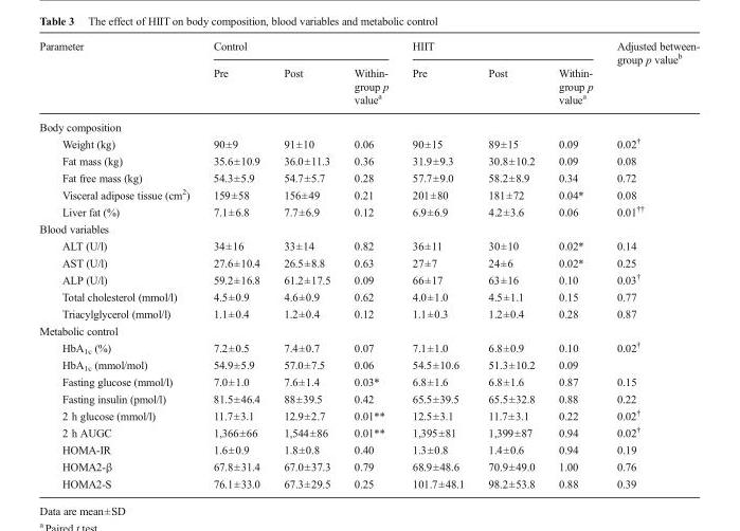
<table><thead><tr><td rowspan="2">Parameter</td><td colspan="3">Control</td><td colspan="3">HIIT</td><td rowspan="2">Adjusted between- group p value<sup>b</sup></td></tr><tr><td>Pre</td><td>Post</td><td>Within- group p value<sup>a</sup></td><td>Pre</td><td>Post</td><td>Within- group p value<sup>a</sup></td></tr></thead><tbody><tr><td colspan="8">Body composition</td></tr><tr><td>Weight (kg)</td><td>90±9</td><td>91±10</td><td>0.06</td><td>90±15</td><td>89±15</td><td>0.09</td><td>0.02<sup>†</sup></td></tr><tr><td>Fat mass (kg)</td><td>35.6±10.9</td><td>36.0±11.3</td><td>0.36</td><td>31.9±9.3</td><td>30.8±10.2</td><td>0.09</td><td>0.08</td></tr><tr><td>Fat free mass (kg)</td><td>54.3±5.9</td><td>54.7±5.7</td><td>0.28</td><td>57.7±9.0</td><td>58.2±8.9</td><td>0.34</td><td>0.72</td></tr><tr><td>Visceral adipose tissue (cm<sup>2</sup>)</td><td>159±58</td><td>156±49</td><td>0.21</td><td>201±80</td><td>181±72</td><td>0.04*</td><td>0.08</td></tr><tr><td>Liver fat (%)</td><td>7.1±6.8</td><td>7.7±6.9</td><td>0.12</td><td>6.9±6.9</td><td>4.2±3.6</td><td>0.06</td><td>0.01<sup>††</sup></td></tr><tr><td colspan="8">Blood variables</td></tr><tr><td>ALT (U/l)</td><td>34±16</td><td>33±14</td><td>0.82</td><td>36±11</td><td>30±10</td><td>0.02*</td><td>0.14</td></tr><tr><td>AST (U/l)</td><td>27.6±10.4</td><td>26.5±8.8</td><td>0.63</td><td>27±7</td><td>24±6</td><td>0.02*</td><td>0.25</td></tr><tr><td>ALP (U/l)</td><td>59.2±16.8</td><td>61.2±17.5</td><td>0.09</td><td>66±17</td><td>63±16</td><td>0.10</td><td>0.03<sup>†</sup></td></tr><tr><td>Total cholesterol (mmol/l)</td><td>4.5±0.9</td><td>4.6±0.9</td><td>0.62</td><td>4.0±1.0</td><td>4.5±1.1</td><td>0.15</td><td>0.77</td></tr><tr><td>Triacylglycerol (mmol/l)</td><td>1.1±0.4</td><td>1.2±0.4</td><td>0.12</td><td>1.1±0.3</td><td>1.2±0.4</td><td>0.28</td><td>0.87</td></tr><tr><td colspan="8">Metabolic control</td></tr><tr><td>HbA<sub>1c</sub> (%)</td><td>7.2±0.5</td><td>7.4±0.7</td><td>0.07</td><td>7.1±1.0</td><td>6.8±0.9</td><td>0.10</td><td>0.02<sup>†</sup></td></tr><tr><td>HbA<sub>1c</sub> (mmol/mol)</td><td>54.9±5.9</td><td>57.0±7.5</td><td>0.06</td><td>54.5±10.6</td><td>51.3±10.2</td><td>0.09</td><td></td></tr><tr><td>Fasting glucose (mmol/l)</td><td>7.0±1.0</td><td>7.6±1.4</td><td>0.03*</td><td>6.8±1.6</td><td>6.8±1.6</td><td>0.87</td><td>0.15</td></tr><tr><td>Fasting insulin (pmol/l)</td><td>81.5±46.4</td><td>88±39.5</td><td>0.42</td><td>65.5±39.5</td><td>65.5±32.8</td><td>0.88</td><td>0.22</td></tr><tr><td>2 h glucose (mmol/l)</td><td>11.7±3.1</td><td>12.9±2.7</td><td>0.01**</td><td>12.5±3.1</td><td>11.7±3.1</td><td>0.22</td><td>0.02<sup>†</sup></td></tr><tr><td>2 h AUGC</td><td>1,366±66</td><td>1,544±86</td><td>0.01**</td><td>1,395±81</td><td>1,399±87</td><td>0.94</td><td>0.02<sup>†</sup></td></tr><tr><td>HOMA-IR</td><td>1.6±0.9</td><td>1.8±0.8</td><td>0.40</td><td>1.3±0.8</td><td>1.4±0.6</td><td>0.94</td><td>0.19</td></tr><tr><td>HOMA2-β</td><td>67.8±31.4</td><td>67.0±37.3</td><td>0.79</td><td>68.9±48.6</td><td>70.9±49.0</td><td>1.00</td><td>0.76</td></tr><tr><td>HOMA2-S</td><td>76.1±33.0</td><td>67.3±29.5</td><td>0.25</td><td>101.7±48.1</td><td>98.2±53.8</td><td>0.88</td><td>0.39</td></tr></tbody></table>